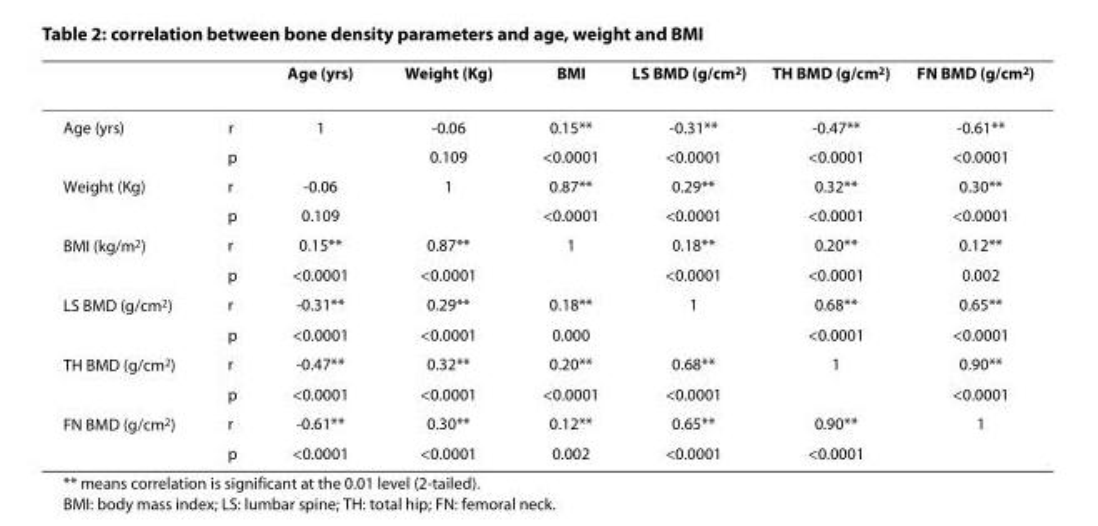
<table><thead><tr><td></td><td></td><td>Age (yrs)</td><td>Weight (Kg)</td><td>BMI</td><td>LS BMD (g/cm<sup>2</sup>)</td><td>TH BMD (g/cm<sup>2</sup>)</td><td>FN BMD (g/cm<sup>2</sup>)</td></tr></thead><tbody><tr><td rowspan="2">Age (yrs)</td><td>r</td><td>1</td><td>-0.06</td><td>0.15**</td><td>-0.31**</td><td>-0.47**</td><td>-0.61**</td></tr><tr><td>p</td><td></td><td>0.109</td><td>&lt;0.0001</td><td>&lt;0.0001</td><td>&lt;0.0001</td><td>&lt;0.0001</td></tr><tr><td rowspan="2">Weight (Kg)</td><td>r</td><td>-0.06</td><td>1</td><td>0.87**</td><td>0.29**</td><td>0.32**</td><td>0.30**</td></tr><tr><td>p</td><td>0.109</td><td></td><td>&lt;0.0001</td><td>&lt;0.0001</td><td>&lt;0.0001</td><td>&lt;0.0001</td></tr><tr><td rowspan="2">BMI (kg/m<sup>2</sup>)</td><td>r</td><td>0.15**</td><td>0.87**</td><td>1</td><td>0.18**</td><td>0.20**</td><td>0.12**</td></tr><tr><td>p</td><td>&lt;0.0001</td><td>&lt;0.0001</td><td></td><td>&lt;0.0001</td><td>&lt;0.0001</td><td>0.002</td></tr><tr><td rowspan="2">LS BMD (g/cm<sup>2</sup>)</td><td>r</td><td>-0.31**</td><td>0.29**</td><td>0.18**</td><td>1</td><td>0.68**</td><td>0.65**</td></tr><tr><td>p</td><td>&lt;0.0001</td><td>&lt;0.0001</td><td>0.000</td><td></td><td>&lt;0.0001</td><td>&lt;0.0001</td></tr><tr><td rowspan="2">TH BMD (g/cm<sup>2</sup>)</td><td>r</td><td>-0.47**</td><td>0.32**</td><td>0.20**</td><td>0.68**</td><td>1</td><td>0.90**</td></tr><tr><td>p</td><td>&lt;0.0001</td><td>&lt;0.0001</td><td>&lt;0.0001</td><td>&lt;0.0001</td><td></td><td>&lt;0.0001</td></tr><tr><td rowspan="2">FN BMD (g/cm<sup>2</sup>)</td><td>r</td><td>-0.61**</td><td>0.30**</td><td>0.12**</td><td>0.65**</td><td>0.90**</td><td>1</td></tr><tr><td>p</td><td>&lt;0.0001</td><td>&lt;0.0001</td><td>0.002</td><td>&lt;0.0001</td><td>&lt;0.0001</td><td></td></tr></tbody></table>